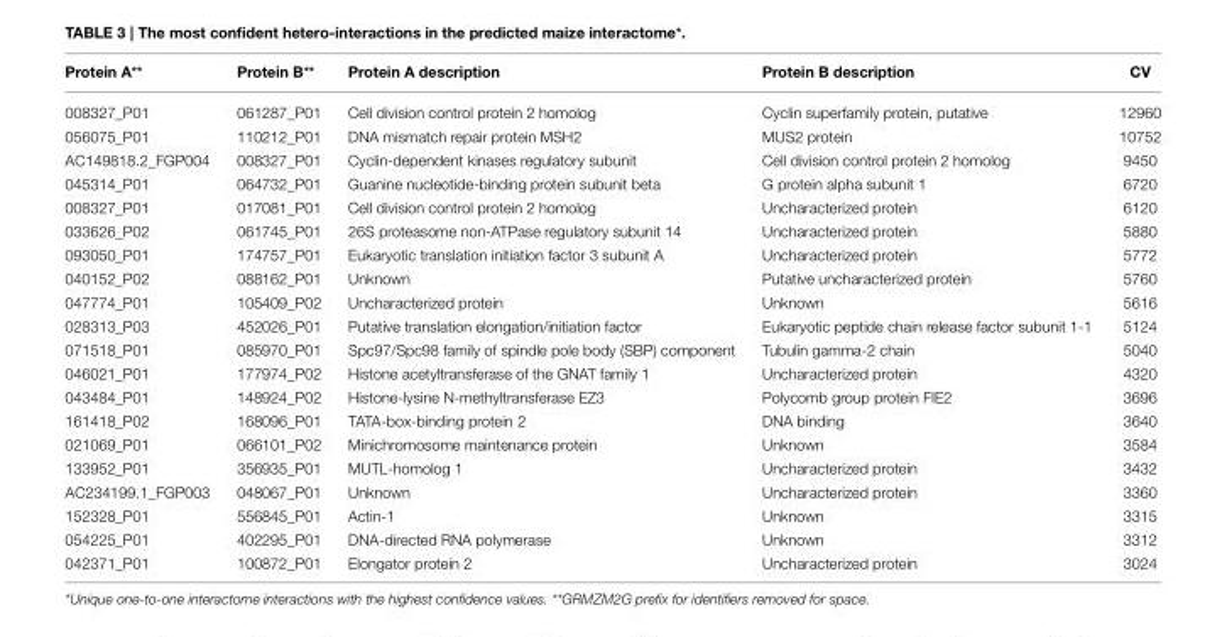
<table><thead><tr><td>Protein A**</td><td>Protein B**</td><td>Protein A description</td><td>Protein B description</td><td>CV</td></tr></thead><tbody><tr><td>008327_P01</td><td>061287_P01</td><td>Cell division control protein 2 homolog</td><td>Cyclin superfamily protein, putative</td><td>12960</td></tr><tr><td>056075_P01</td><td>110212_P01</td><td>DNA mismatch repair protein MSH2</td><td>MUS2 protein</td><td>10752</td></tr><tr><td>AC149818.2_FGP004</td><td>008327_P01</td><td>Cyclin-dependent kinases regulatory subunit</td><td>Cell division control protein 2 homolog</td><td>9450</td></tr><tr><td>045314_P01</td><td>064732_P01</td><td>Guanine nucleotide-binding protein subunit beta</td><td>G protein alpha subunit 1</td><td>6720</td></tr><tr><td>008327_P01</td><td>017081_P01</td><td>Cell division control protein 2 homolog</td><td>Uncharacterized protein</td><td>6120</td></tr><tr><td>033626_P02</td><td>061745_P01</td><td>26S proteasome non-ATPase regulatory subunit 14</td><td>Uncharacterized protein</td><td>5880</td></tr><tr><td>093050_P01</td><td>174757_P01</td><td>Eukaryotic translation initiation factor 3 subunit A</td><td>Uncharacterized protein</td><td>5772</td></tr><tr><td>040152_P02</td><td>088162_P01</td><td>Unknown</td><td>Putative uncharacterized protein</td><td>5760</td></tr><tr><td>047774_P01</td><td>105409_P02</td><td>Uncharacterized protein</td><td>Unknown</td><td>5616</td></tr><tr><td>028313_P03</td><td>452026_P01</td><td>Putative translation elongation/initiation factor</td><td>Eukaryotic peptide chain release factor subunit 1-1</td><td>5124</td></tr><tr><td>071518_P01</td><td>085970_P01</td><td>Spc97/Spc98 family of spindle pole body (SBP) component</td><td>Tubulin gamma-2 chain</td><td>5040</td></tr><tr><td>046021_P01</td><td>177974_P02</td><td>Histone acetyltransferase of the GNAT family 1</td><td>Uncharacterized protein</td><td>4320</td></tr><tr><td>043484_P01</td><td>148924_P02</td><td>Histone-lysine N-methyltransferase EZ3</td><td>Polycomb group protein FIE2</td><td>3696</td></tr><tr><td>161418_P02</td><td>168096_P01</td><td>TATA-box-binding protein 2</td><td>DNA binding</td><td>3640</td></tr><tr><td>021069_P01</td><td>066101_P02</td><td>Minichromosome maintenance protein</td><td>Unknown</td><td>3584</td></tr><tr><td>133952_P01</td><td>356935_P01</td><td>MUTL-homolog 1</td><td>Uncharacterized protein</td><td>3432</td></tr><tr><td>AC234199.1_FGP003</td><td>048067_P01</td><td>Unknown</td><td>Uncharacterized protein</td><td>3360</td></tr><tr><td>152328_P01</td><td>556845_P01</td><td>Actin-1</td><td>Unknown</td><td>3315</td></tr><tr><td>054225_P01</td><td>402295_P01</td><td>DNA-directed RNA polymerase</td><td>Unknown</td><td>3312</td></tr><tr><td>042371_P01</td><td>100872_P01</td><td>Elongator protein 2</td><td>Uncharacterized protein</td><td>3024</td></tr></tbody></table>